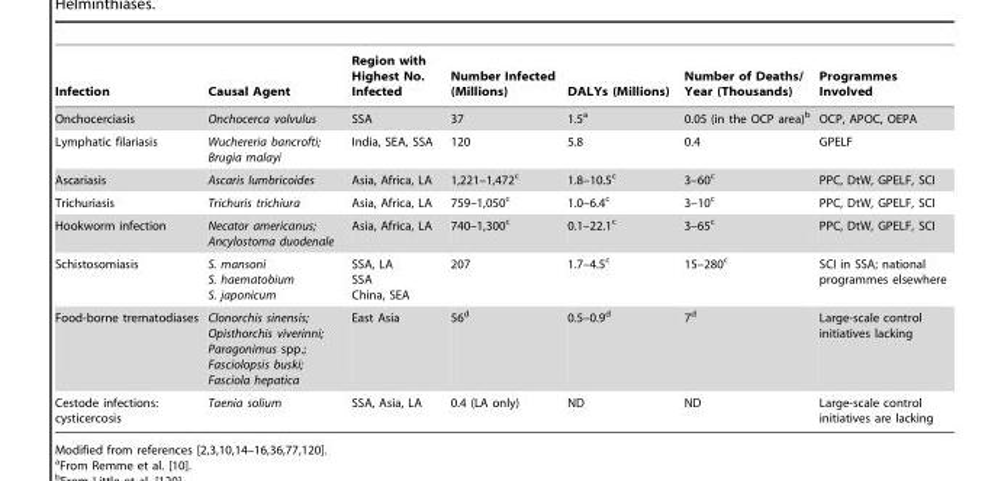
<table><thead><tr><td>Infection</td><td>Causal Agent</td><td>Region with Highest No. Infected</td><td>Number Infected (Millions)</td><td>DALYs (Millions)</td><td>Number of Deaths/ Year (Thousands)</td><td>Programmes Involved</td></tr></thead><tbody><tr><td>Onchocerciasis</td><td>Onchocerca volvulus</td><td>SSA</td><td>37</td><td>1.5<sup>a</sup></td><td>0.05 (in the OCP area)<sup>b</sup></td><td>OCP, APOC, OEPA</td></tr><tr><td>Lymphatic filariasis</td><td>Wuchereria bancrofti; Brugia malayi</td><td>India, SEA, SSA</td><td>120</td><td>5.8</td><td>0.4</td><td>GPELF</td></tr><tr><td>Ascariasis</td><td>Ascaris lumbricoides</td><td>Asia, Africa, LA</td><td>1,221–1,472<sup>c</sup></td><td>1.8–10.5<sup>c</sup></td><td>3–60<sup>c</sup></td><td>PPC, DtW, GPELF, SCI</td></tr><tr><td>Trichuriasis</td><td>Trichuris trichiura</td><td>Asia, Africa, LA</td><td>759–1,050<sup>c</sup></td><td>1.0–6.4<sup>c</sup></td><td>3–10<sup>c</sup></td><td>PPC, DtW, GPELF, SCI</td></tr><tr><td>Hookworm infection</td><td>Necator americanus; Ancylostoma duodenale</td><td>Asia, Africa, LA</td><td>740–1,300<sup>c</sup></td><td>0.1–22.1<sup>c</sup></td><td>3–65<sup>c</sup></td><td>PPC, DtW, GPELF, SCI</td></tr><tr><td>Schistosomiasis</td><td>S. mansoni S. haematobium S. japonicum</td><td>SSA, LA SSA China, SEA</td><td>207</td><td>1.7–4.5<sup>c</sup></td><td>15–280<sup>c</sup></td><td>SCI in SSA; national programmes elsewhere</td></tr><tr><td>Food-borne trematodiases</td><td>Clonorchis sinensis; Opisthorchis viverinni; Paragonimus spp.; Fasciolopsis buski; Fasciola hepatica</td><td>East Asia</td><td>56<sup>d</sup></td><td>0.5–0.9<sup>d</sup></td><td>7<sup>d</sup></td><td>Large-scale control initiatives lacking</td></tr><tr><td>Cestode infections: cysticercosis</td><td>Taenia solium</td><td>SSA, Asia, LA</td><td>0.4 (LA only)</td><td>ND</td><td>ND</td><td>Large-scale control initiatives are lacking</td></tr></tbody></table>